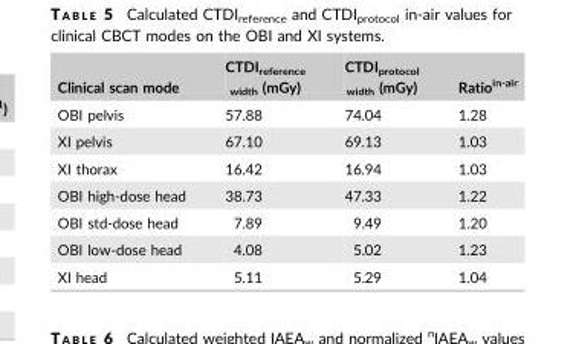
<table><thead><tr><td>Clinical scan mode</td><td>CTDI<sub>reference width</sub> (mGy)</td><td>CTDI<sub>protocol width</sub> (mGy)</td><td>Ratio<sup>in-air</sup></td></tr></thead><tbody><tr><td>OBI pelvis</td><td>57.88</td><td>74.04</td><td>1.28</td></tr><tr><td>XI pelvis</td><td>67.10</td><td>69.13</td><td>1.03</td></tr><tr><td>XI thorax</td><td>16.42</td><td>16.94</td><td>1.03</td></tr><tr><td>OBI high-dose head</td><td>38.73</td><td>47.33</td><td>1.22</td></tr><tr><td>OBI std-dose head</td><td>7.89</td><td>9.49</td><td>1.20</td></tr><tr><td>OBI low-dose head</td><td>4.08</td><td>5.02</td><td>1.23</td></tr><tr><td>XI head</td><td>5.11</td><td>5.29</td><td>1.04</td></tr></tbody></table>